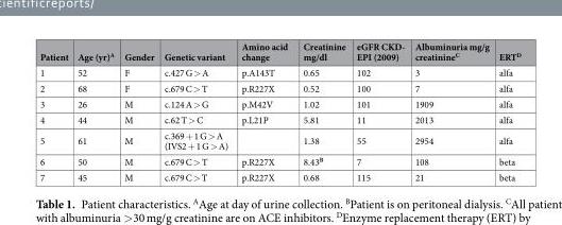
<table><thead><tr><td>Patient</td><td>Age (yr)<sup>A</sup></td><td>Gender</td><td>Genetic variant</td><td>Amino acid change</td><td>Creatinine mg/dl</td><td>eGFR CKD- EPI (2009)</td><td>Albuminuria mg/g creatinine<sup>C</sup></td><td>ERT<sup>D</sup></td></tr></thead><tbody><tr><td>1</td><td>52</td><td>F</td><td>c.427 G &gt; A</td><td>p.A143T</td><td>0.65</td><td>102</td><td>3</td><td>alfa</td></tr><tr><td>2</td><td>68</td><td>F</td><td>c.679 C &gt; T</td><td>p.R227X</td><td>0.52</td><td>100</td><td>7</td><td>alfa</td></tr><tr><td>3</td><td>26</td><td>M</td><td>c.124 A &gt; G</td><td>p.M42V</td><td>1.02</td><td>101</td><td>1909</td><td>alfa</td></tr><tr><td>4</td><td>44</td><td>M</td><td>c.62 T &gt; C</td><td>p.L21P</td><td>5.81</td><td>11</td><td>2013</td><td>alfa</td></tr><tr><td>5</td><td>61</td><td>M</td><td>c.369 + 1 G &gt; A (IVS2 + 1 G &gt; A)</td><td></td><td>1.38</td><td>55</td><td>2954</td><td>alfa</td></tr><tr><td>6</td><td>50</td><td>M</td><td>c.679 C &gt; T</td><td>p.R227X</td><td>8.43<sup>B</sup></td><td>7</td><td>108</td><td>beta</td></tr><tr><td>7</td><td>45</td><td>M</td><td>c.679 C &gt; T</td><td>p.R227X</td><td>0.68</td><td>115</td><td>21</td><td>beta</td></tr></tbody></table>